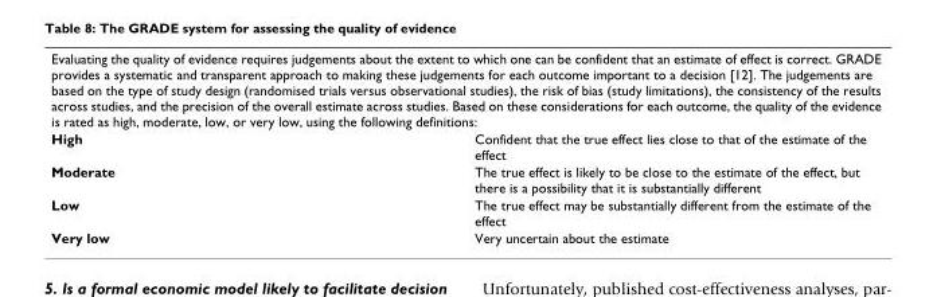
<table><tbody><tr><td colspan="2">Evaluating the quality of evidence requires judgements about the extent to which one can be confident that an estimate of effect is correct. GRADE provides a systematic and transparent approach to making these judgements for each outcome important to a decision [12]. The judgements are based on the type of study design (randomised trials versus observational studies), the risk of bias (study limitations), the consistency of the results across studies, and the precision of the overall estimate across studies. Based on these considerations for each outcome, the quality of the evidence is rated as high, moderate, low, or very low, using the following definitions:</td></tr><tr><td>High</td><td>Confident that the true effect lies close to that of the estimate of the effect</td></tr><tr><td>Moderate</td><td>The true effect is likely to be close to the estimate of the effect, but there is a possibility that it is substantially different</td></tr><tr><td>Low</td><td>The true effect may be substantially different from the estimate of the effect</td></tr><tr><td>Very low</td><td>Very uncertain about the estimate</td></tr></tbody></table>